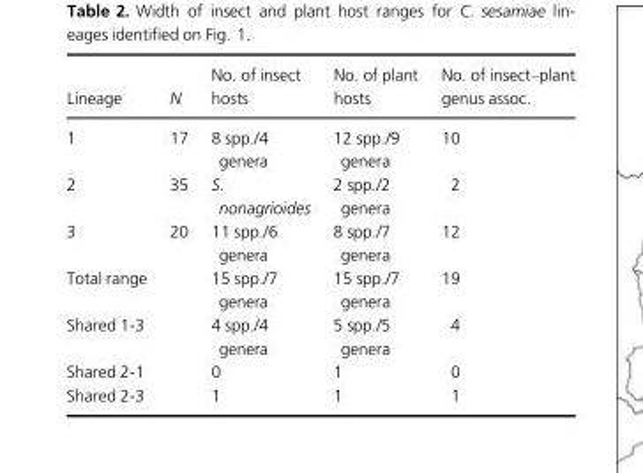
<table><thead><tr><td>Lineage</td><td>N</td><td>No. of insect hosts</td><td>No. of plant hosts</td><td>No. of insect–plant genus assoc.</td></tr></thead><tbody><tr><td>1</td><td>17</td><td>8 spp./4 genera</td><td>12 spp./9 genera</td><td>10</td></tr><tr><td>2</td><td>35</td><td>S. nonagrioides</td><td>2 spp./2 genera</td><td>2</td></tr><tr><td>3</td><td>20</td><td>11 spp./6 genera</td><td>8 spp./7 genera</td><td>12</td></tr><tr><td>Total range</td><td></td><td>15 spp./7 genera</td><td>15 spp./7 genera</td><td>19</td></tr><tr><td>Shared 1-3</td><td></td><td>4 spp./4 genera</td><td>5 spp./5 genera</td><td>4</td></tr><tr><td>Shared 2-1</td><td></td><td>0</td><td>1</td><td>0</td></tr><tr><td>Shared 2-3</td><td></td><td>1</td><td>1</td><td>1</td></tr></tbody></table>